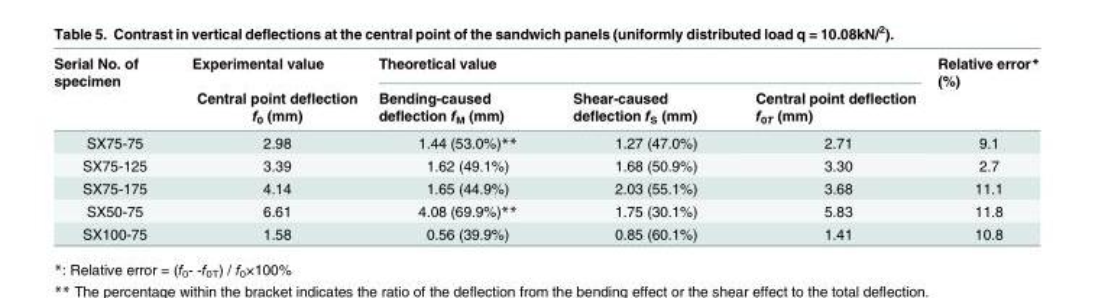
<table><thead><tr><td rowspan="2">Serial No. of specimen</td><td rowspan="2">Experimental value Central point deflection f<sub>0</sub> (mm)</td><td colspan="3">Theoretical value</td><td rowspan="2">Relative error* (%)</td></tr><tr><td>Bending-caused deflection f<sub>M</sub> (mm)</td><td>Shear-caused deflection f<sub>S</sub> (mm)</td><td>Central point deflection f<sub>0T</sub> (mm)</td></tr></thead><tbody><tr><td>SX75-75</td><td>2.98</td><td>1.44 (53.0%)**</td><td>1.27 (47.0%)</td><td>2.71</td><td>9.1</td></tr><tr><td>SX75-125</td><td>3.39</td><td>1.62 (49.1%)</td><td>1.68 (50.9%)</td><td>3.30</td><td>2.7</td></tr><tr><td>SX75-175</td><td>4.14</td><td>1.65 (44.9%)</td><td>2.03 (55.1%)</td><td>3.68</td><td>11.1</td></tr><tr><td>SX50-75</td><td>6.61</td><td>4.08 (69.9%)**</td><td>1.75 (30.1%)</td><td>5.83</td><td>11.8</td></tr><tr><td>SX100-75</td><td>1.58</td><td>0.56 (39.9%)</td><td>0.85 (60.1%)</td><td>1.41</td><td>10.8</td></tr></tbody></table>